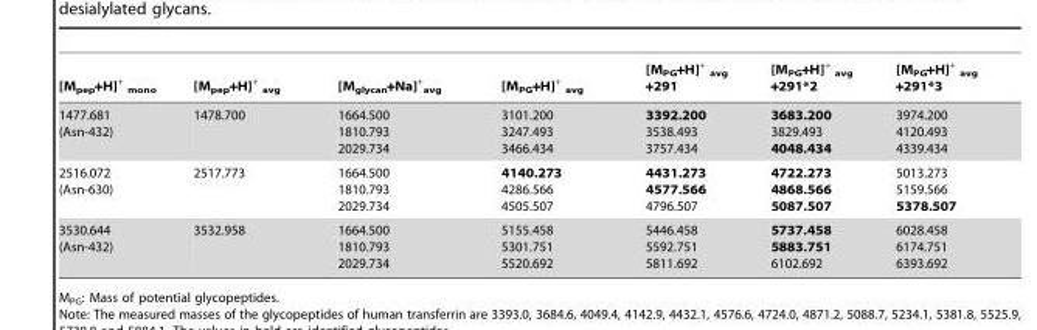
<table><thead><tr><td>[M<sub>pep</sub>+H]<sup>+</sup> <sub>mono</sub></td><td>[M<sub>pep</sub>+H]<sup>+</sup> <sub>avg</sub></td><td>[M<sub>glycan</sub>+Na]<sup>+</sup> <sub>avg</sub></td><td>[M<sub>PG</sub>+H]<sup>+</sup> <sub>avg</sub></td><td>[M<sub>PG</sub>+H]<sup>+</sup> <sub>avg</sub> +291</td><td>[M<sub>PG</sub>+H]<sup>+</sup> <sub>avg</sub> +291*2</td><td>[M<sub>PG</sub>+H]<sup>+</sup> <sub>avg</sub> +291*3</td></tr></thead><tbody><tr><td>1477.681 (Asn-432)</td><td>1478.700</td><td>1664.500 1810.793 2029.734</td><td>3101.200 3247.493 3466.434</td><td>3392.200 3538.493 3757.434</td><td>3683.200 3829.493 4048.434</td><td>3974.200 4120.493 4339.434</td></tr><tr><td>2516.072 (Asn-630)</td><td>2517.773</td><td>1664.500 1810.793 2029.734</td><td>4140.273 4286.566 4505.507</td><td>4431.273 4577.566 4796.507</td><td>4722.273 4868.566 5087.507</td><td>5013.273 5159.566 5378.507</td></tr><tr><td>3530.644 (Asn-432)</td><td>3532.958</td><td>1664.500 1810.793 2029.734</td><td>5155.458 5301.751 5520.692</td><td>5446.458 5592.751 5811.692</td><td>5737.458 5883.751 6102.692</td><td>6028.458 6174.751 6393.692</td></tr></tbody></table>